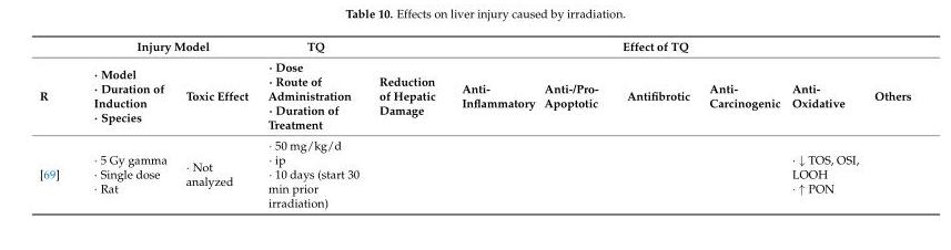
<table><thead><tr><td rowspan="2">R</td><td colspan="2">Injury Model</td><td rowspan="2">TQ · Dose · Route of Administration · Duration of Treatment</td><td colspan="7">Effect of TQ</td></tr><tr><td>· Model · Duration of Induction · Species</td><td>Toxic Effect</td><td>Reduction of Hepatic Damage</td><td>Anti- Inflammatory</td><td>Anti-/Pro- Apoptotic</td><td>Antifibrotic</td><td>Anti- Carcinogenic</td><td>Anti- Oxidative</td><td>Others</td></tr></thead><tbody><tr><td>[69]</td><td>· 5 Gy gamma · Single dose · Rat</td><td>· Not analyzed</td><td>· 50 mg/kg/d · ip · 10 days (start 30 min prior irradiation)</td><td></td><td></td><td></td><td></td><td></td><td>· ↓ TOS, OSI, LOOH · ↑ PON</td><td></td></tr></tbody></table>